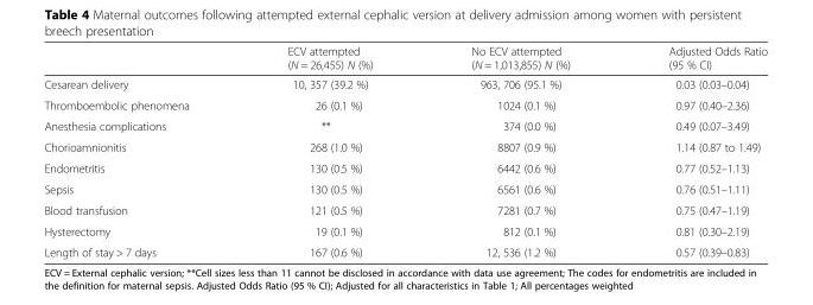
<table><thead><tr><td></td><td>ECV attempted (N = 26,455) N (%)</td><td>No ECV attempted (N = 1,013,855) N (%)</td><td>Adjusted Odds Ratio (95 % CI)</td></tr></thead><tbody><tr><td>Cesarean delivery</td><td>10, 357 (39.2 %)</td><td>963, 706 (95.1 %)</td><td>0.03 (0.03–0.04)</td></tr><tr><td>Thromboembolic phenomena</td><td>26 (0.1 %)</td><td>1024 (0.1 %)</td><td>0.97 (0.40–2.36)</td></tr><tr><td>Anesthesia complications</td><td>**</td><td>374 (0.0 %)</td><td>0.49 (0.07–3.49)</td></tr><tr><td>Chorioamnionitis</td><td>268 (1.0 %)</td><td>8807 (0.9 %)</td><td>1.14 (0.87 to 1.49)</td></tr><tr><td>Endometritis</td><td>130 (0.5 %)</td><td>6442 (0.6 %)</td><td>0.77 (0.52–1.13)</td></tr><tr><td>Sepsis</td><td>130 (0.5 %)</td><td>6561 (0.6 %)</td><td>0.76 (0.51–1.11)</td></tr><tr><td>Blood transfusion</td><td>121 (0.5 %)</td><td>7281 (0.7 %)</td><td>0.75 (0.47–1.19)</td></tr><tr><td>Hysterectomy</td><td>19 (0.1 %)</td><td>812 (0.1 %)</td><td>0.81 (0.30–2.19)</td></tr><tr><td>Length of stay &gt; 7 days</td><td>167 (0.6 %)</td><td>12, 536 (1.2 %)</td><td>0.57 (0.39–0.83)</td></tr></tbody></table>